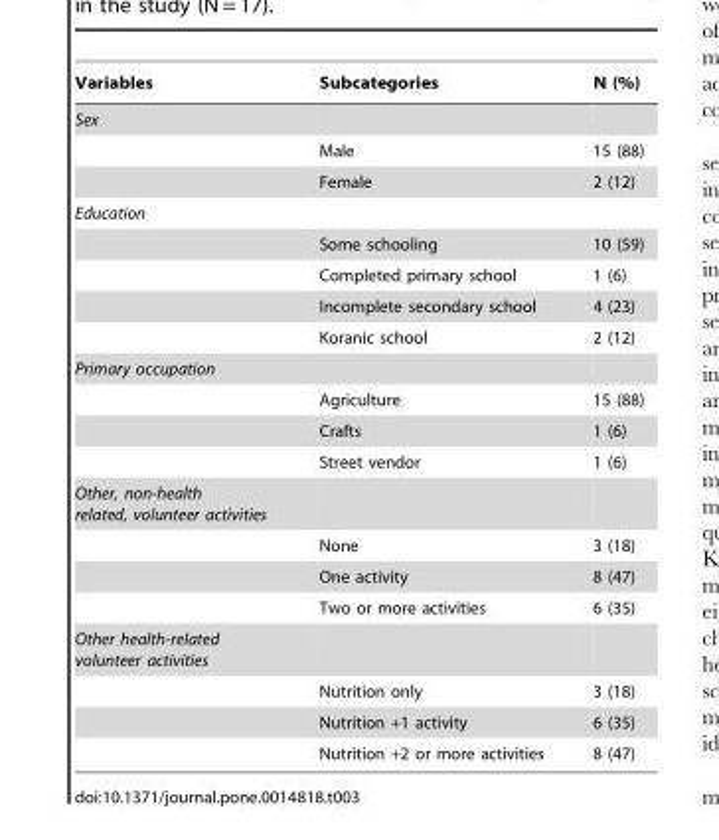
<table><thead><tr><td>Variables</td><td>Subcategories</td><td>N (%)</td></tr></thead><tbody><tr><td colspan="3">Sex</td></tr><tr><td></td><td>Male</td><td>15 (88)</td></tr><tr><td></td><td>Female</td><td>2 (12)</td></tr><tr><td colspan="3">Education</td></tr><tr><td></td><td>Some schooling</td><td>10 (59)</td></tr><tr><td></td><td>Completed primary school</td><td>1 (6)</td></tr><tr><td></td><td>Incomplete secondary school</td><td>4 (23)</td></tr><tr><td></td><td>Koranic school</td><td>2 (12)</td></tr><tr><td colspan="3">Primary occupation</td></tr><tr><td></td><td>Agriculture</td><td>15 (88)</td></tr><tr><td></td><td>Crafts</td><td>1 (6)</td></tr><tr><td></td><td>Street vendor</td><td>1 (6)</td></tr><tr><td colspan="3">Other, non-health related, volunteer activities</td></tr><tr><td></td><td>None</td><td>3 (18)</td></tr><tr><td></td><td>One activity</td><td>8 (47)</td></tr><tr><td></td><td>Two or more activities</td><td>6 (35)</td></tr><tr><td colspan="3">Other health-related volunteer activities</td></tr><tr><td></td><td>Nutrition only</td><td>3 (18)</td></tr><tr><td></td><td>Nutrition +1 activity</td><td>6 (35)</td></tr><tr><td></td><td>Nutrition +2 or more activities</td><td>8 (47)</td></tr></tbody></table>